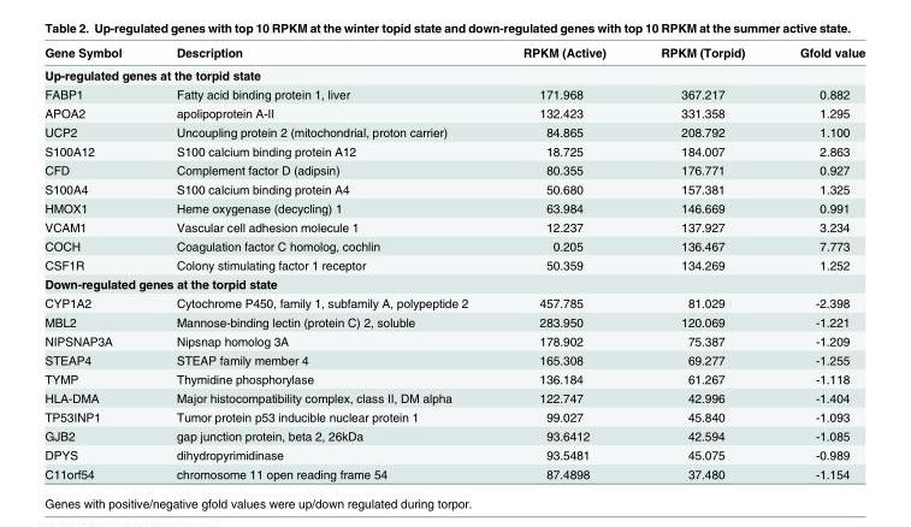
<table><thead><tr><td>Gene Symbol</td><td>Description</td><td>RPKM (Active)</td><td>RPKM (Torpid)</td><td>Gfold value</td></tr></thead><tbody><tr><td colspan="5">Up-regulated genes at the torpid state</td></tr><tr><td>FABP1</td><td>Fatty acid binding protein 1, liver</td><td>171.968</td><td>367.217</td><td>0.882</td></tr><tr><td>APOA2</td><td>apolipoprotein A-II</td><td>132.423</td><td>331.358</td><td>1.295</td></tr><tr><td>UCP2</td><td>Uncoupling protein 2 (mitochondrial, proton carrier)</td><td>84.865</td><td>208.792</td><td>1.100</td></tr><tr><td>S100A12</td><td>S100 calcium binding protein A12</td><td>18.725</td><td>184.007</td><td>2.863</td></tr><tr><td>CFD</td><td>Complement factor D (adipsin)</td><td>80.355</td><td>176.771</td><td>0.927</td></tr><tr><td>S100A4</td><td>S100 calcium binding protein A4</td><td>50.680</td><td>157.381</td><td>1.325</td></tr><tr><td>HMOX1</td><td>Heme oxygenase (decycling) 1</td><td>63.984</td><td>146.669</td><td>0.991</td></tr><tr><td>VCAM1</td><td>Vascular cell adhesion molecule 1</td><td>12.237</td><td>137.927</td><td>3.234</td></tr><tr><td>COCH</td><td>Coagulation factor C homolog, cochlin</td><td>0.205</td><td>136.467</td><td>7.773</td></tr><tr><td>CSF1R</td><td>Colony stimulating factor 1 receptor</td><td>50.359</td><td>134.269</td><td>1.252</td></tr><tr><td colspan="5">Down-regulated genes at the torpid state</td></tr><tr><td>CYP1A2</td><td>Cytochrome P450, family 1, subfamily A, polypeptide 2</td><td>457.785</td><td>81.029</td><td>-2.398</td></tr><tr><td>MBL2</td><td>Mannose-binding lectin (protein C) 2, soluble</td><td>283.950</td><td>120.069</td><td>-1.221</td></tr><tr><td>NIPSNAP3A</td><td>Nipsnap homolog 3A</td><td>178.902</td><td>75.387</td><td>-1.209</td></tr><tr><td>STEAP4</td><td>STEAP family member 4</td><td>165.308</td><td>69.277</td><td>-1.255</td></tr><tr><td>TYMP</td><td>Thymidine phosphorylase</td><td>136.184</td><td>61.267</td><td>-1.118</td></tr><tr><td>HLA-DMA</td><td>Major histocompatibility complex, class II, DM alpha</td><td>122.747</td><td>42.996</td><td>-1.404</td></tr><tr><td>TP53INP1</td><td>Tumor protein p53 inducible nuclear protein 1</td><td>99.027</td><td>45.840</td><td>-1.093</td></tr><tr><td>GJB2</td><td>gap junction protein, beta 2, 26kDa</td><td>93.6412</td><td>42.594</td><td>-1.085</td></tr><tr><td>DPYS</td><td>dihydropyrimidinase</td><td>93.5481</td><td>45.075</td><td>-0.989</td></tr><tr><td>C11orf54</td><td>chromosome 11 open reading frame 54</td><td>87.4898</td><td>37.480</td><td>-1.154</td></tr></tbody></table>